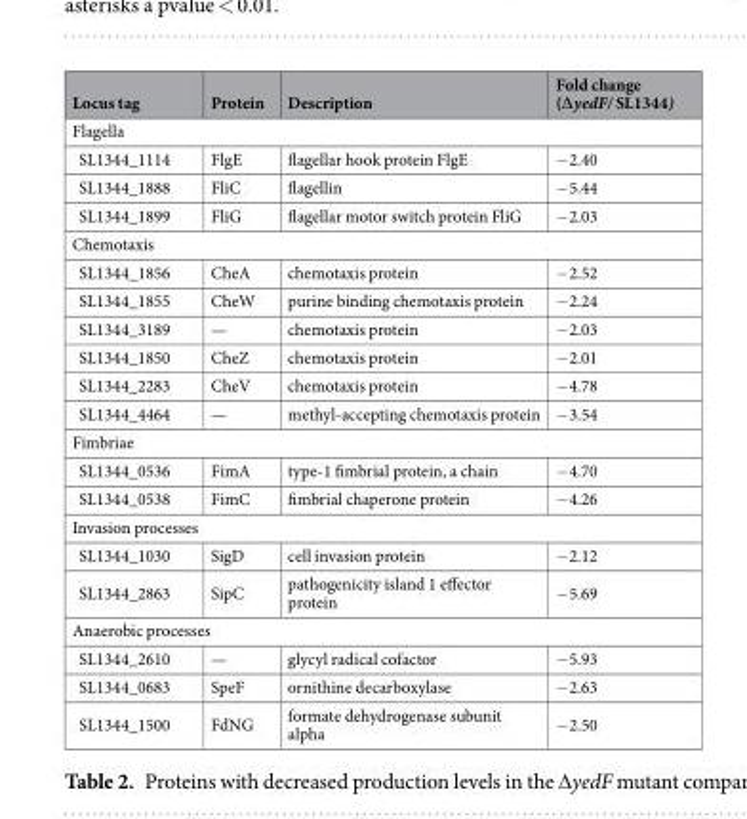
<table><thead><tr><td>Locus tag</td><td>Protein</td><td>Description</td><td>Fold change (∆yedF/ SL1344)</td></tr></thead><tbody><tr><td colspan="4">Flagella</td></tr><tr><td>SL1344_1114</td><td>FlgE</td><td>flagellar hook protein FlgE</td><td>−2.40</td></tr><tr><td>SL1344_1888</td><td>FliC</td><td>flagellin</td><td>−5.44</td></tr><tr><td>SL1344_1899</td><td>FliG</td><td>flagellar motor switch protein FliG</td><td>−2.03</td></tr><tr><td colspan="4">Chemotaxis</td></tr><tr><td>SL1344_1856</td><td>CheA</td><td>chemotaxis protein</td><td>−2.52</td></tr><tr><td>SL1344_1855</td><td>CheW</td><td>purine binding chemotaxis protein</td><td>−2.24</td></tr><tr><td>SL1344_3189</td><td>—</td><td>chemotaxis protein</td><td>−2.03</td></tr><tr><td>SL1344_1850</td><td>CheZ</td><td>chemotaxis protein</td><td>−2.01</td></tr><tr><td>SL1344_2283</td><td>CheV</td><td>chemotaxis protein</td><td>−4.78</td></tr><tr><td>SL1344_4464</td><td>—</td><td>methyl-accepting chemotaxis protein</td><td>−3.54</td></tr><tr><td colspan="4">Fimbriae</td></tr><tr><td>SL1344_0536</td><td>FimA</td><td>type-1 fimbrial protein, a chain</td><td>−4.70</td></tr><tr><td>SL1344_0538</td><td>FimC</td><td>fimbrial chaperone protein</td><td>−4.26</td></tr><tr><td colspan="4">Invasion processes</td></tr><tr><td>SL1344_1030</td><td>SigD</td><td>cell invasion protein</td><td>−2.12</td></tr><tr><td>SL1344_2863</td><td>SipC</td><td>pathogenicity island 1 effector protein</td><td>−5.69</td></tr><tr><td colspan="4">Anaerobic processes</td></tr><tr><td>SL1344_2610</td><td>—</td><td>glycyl radical cofactor</td><td>−5.93</td></tr><tr><td>SL1344_0683</td><td>SpeF</td><td>ornithine decarboxylase</td><td>−2.63</td></tr><tr><td>SL1344_1500</td><td>FdNG</td><td>formate dehydrogenase subunit alpha</td><td>−2.50</td></tr></tbody></table>